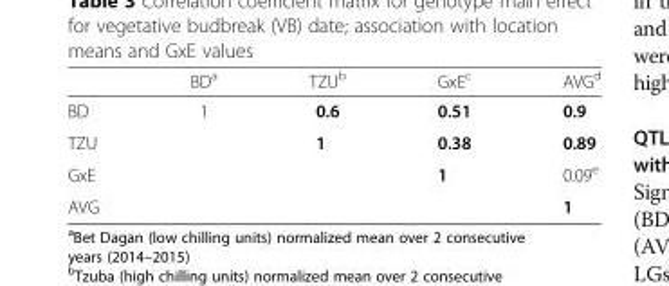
<table><thead><tr><td></td><td>BD<sup>a</sup></td><td>TZU<sup>b</sup></td><td>GxE<sup>c</sup></td><td>AVG<sup>d</sup></td></tr></thead><tbody><tr><td>BD</td><td>1</td><td>0.6</td><td>0.51</td><td>0.9</td></tr><tr><td>TZU</td><td></td><td>1</td><td>0.38</td><td>0.89</td></tr><tr><td>GxE</td><td></td><td></td><td>1</td><td>0.09<sup>e</sup></td></tr><tr><td>AVG</td><td></td><td></td><td></td><td>1</td></tr></tbody></table>